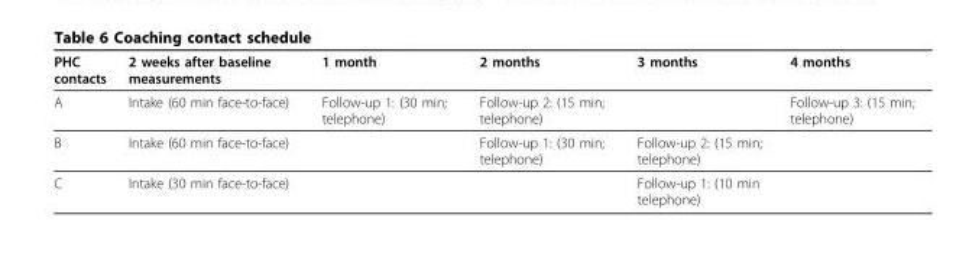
<table><thead><tr><td>PHC contacts</td><td>2 weeks after baseline measurements</td><td>1 month</td><td>2 months</td><td>3 months</td><td>4 months</td></tr></thead><tbody><tr><td>A</td><td>Intake (60 min face-to-face)</td><td>Follow-up 1: (30 min; telephone)</td><td>Follow-up 2: (15 min; telephone)</td><td></td><td>Follow-up 3: (15 min; telephone)</td></tr><tr><td>B</td><td>Intake (60 min face-to-face)</td><td></td><td>Follow-up 1: (30 min; telephone)</td><td>Follow-up 2: (15 min; telephone)</td><td></td></tr><tr><td>C</td><td>Intake (30 min face-to-face)</td><td></td><td></td><td>Follow-up 1: (10 min telephone)</td><td></td></tr></tbody></table>